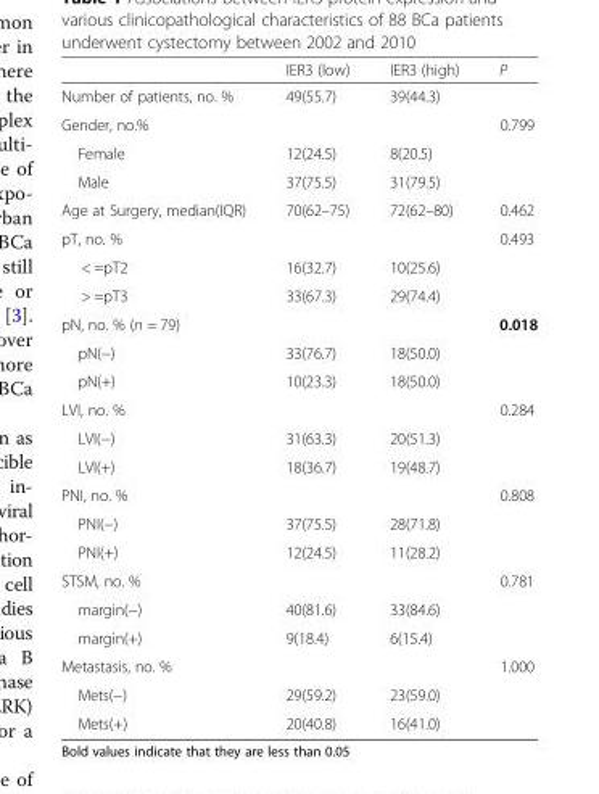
<table><thead><tr><td></td><td>IER3 (low)</td><td>IER3 (high)</td><td>P</td></tr></thead><tbody><tr><td>Number of patients, no. %</td><td>49(55.7)</td><td>39(44.3)</td><td></td></tr><tr><td>Gender, no.%</td><td></td><td></td><td>0.799</td></tr><tr><td>Female</td><td>12(24.5)</td><td>8(20.5)</td><td></td></tr><tr><td>Male</td><td>37(75.5)</td><td>31(79.5)</td><td></td></tr><tr><td>Age at Surgery, median(IQR)</td><td>70(62–75)</td><td>72(62–80)</td><td>0.462</td></tr><tr><td>pT, no. %</td><td></td><td></td><td>0.493</td></tr><tr><td>&lt; =pT2</td><td>16(32.7)</td><td>10(25.6)</td><td></td></tr><tr><td>&gt; =pT3</td><td>33(67.3)</td><td>29(74.4)</td><td></td></tr><tr><td>pN, no. % (n = 79)</td><td></td><td></td><td>0.018</td></tr><tr><td>pN(−)</td><td>33(76.7)</td><td>18(50.0)</td><td></td></tr><tr><td>pN(+)</td><td>10(23.3)</td><td>18(50.0)</td><td></td></tr><tr><td>LVI, no. %</td><td></td><td></td><td>0.284</td></tr><tr><td>LVI(−)</td><td>31(63.3)</td><td>20(51.3)</td><td></td></tr><tr><td>LVI(+)</td><td>18(36.7)</td><td>19(48.7)</td><td></td></tr><tr><td>PNI, no. %</td><td></td><td></td><td>0.808</td></tr><tr><td>PNI(−)</td><td>37(75.5)</td><td>28(71.8)</td><td></td></tr><tr><td>PNI(+)</td><td>12(24.5)</td><td>11(28.2)</td><td></td></tr><tr><td>STSM, no. %</td><td></td><td></td><td>0.781</td></tr><tr><td>margin(−)</td><td>40(81.6)</td><td>33(84.6)</td><td></td></tr><tr><td>margin(+)</td><td>9(18.4)</td><td>6(15.4)</td><td></td></tr><tr><td>Metastasis, no. %</td><td></td><td></td><td>1.000</td></tr><tr><td>Mets(−)</td><td>29(59.2)</td><td>23(59.0)</td><td></td></tr><tr><td>Mets(+)</td><td>20(40.8)</td><td>16(41.0)</td><td></td></tr></tbody></table>